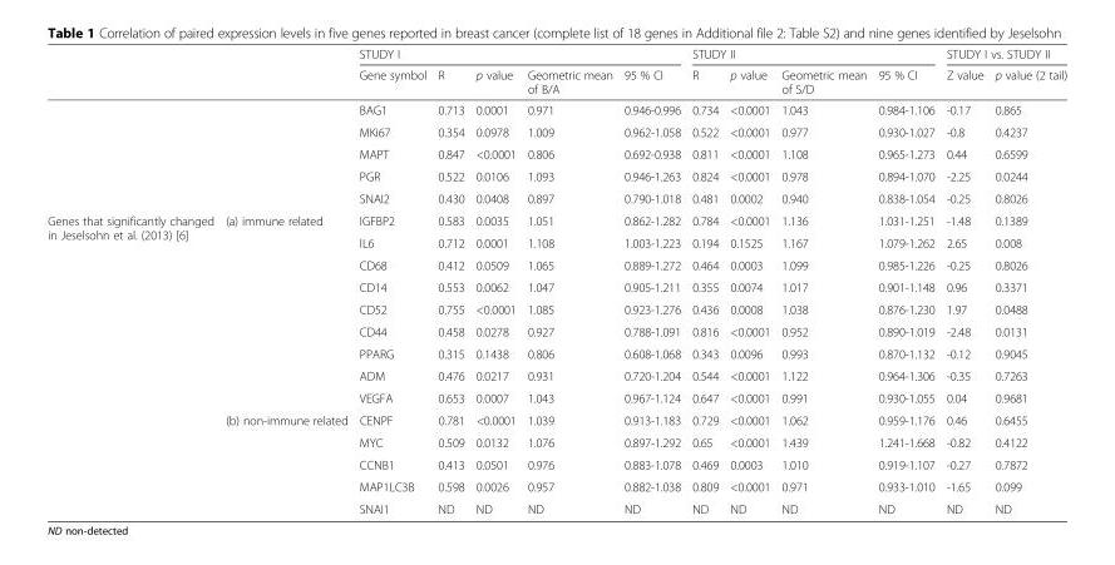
<table><thead><tr><td rowspan="2"></td><td rowspan="2"></td><td colspan="5">STUDY I</td><td colspan="4">STUDY II</td><td colspan="2">STUDY I vs. STUDY II</td></tr><tr><td>Gene symbol</td><td>R</td><td>p value</td><td>Geometric mean of B/A</td><td>95 % CI</td><td>R</td><td>p value</td><td>Geometric mean of S/D</td><td>95 % CI</td><td>Z value</td><td>p value (2 tail)</td></tr></thead><tbody><tr><td rowspan="5" colspan="2"></td><td>BAG1</td><td>0.713</td><td>0.0001</td><td>0.971</td><td>0.946-0.996</td><td>0.734</td><td>&lt;0.0001</td><td>1.043</td><td>0.984-1.106</td><td>-0.17</td><td>0.865</td></tr><tr><td>MKi67</td><td>0.354</td><td>0.0978</td><td>1.009</td><td>0.962-1.058</td><td>0.522</td><td>&lt;0.0001</td><td>0.977</td><td>0.930-1.027</td><td>-0.8</td><td>0.4237</td></tr><tr><td>MAPT</td><td>0.847</td><td>&lt;0.0001</td><td>0.806</td><td>0.692-0.938</td><td>0.811</td><td>&lt;0.0001</td><td>1.108</td><td>0.965-1.273</td><td>0.44</td><td>0.6599</td></tr><tr><td>PGR</td><td>0.522</td><td>0.0106</td><td>1.093</td><td>0.946-1.263</td><td>0.824</td><td>&lt;0.0001</td><td>0.978</td><td>0.894-1.070</td><td>-2.25</td><td>0.0244</td></tr><tr><td>SNAI2</td><td>0.430</td><td>0.0408</td><td>0.897</td><td>0.790-1.018</td><td>0.481</td><td>0.0002</td><td>0.940</td><td>0.838-1.054</td><td>-0.25</td><td>0.8026</td></tr><tr><td rowspan="14">Genes that significantly changed in Jeselsohn et al. (2013) [6]</td><td rowspan="9">(a) immune related</td><td>IGFBP2</td><td>0.583</td><td>0.0035</td><td>1.051</td><td>0.862-1.282</td><td>0.784</td><td>&lt;0.0001</td><td>1.136</td><td>1.031-1.251</td><td>-1.48</td><td>0.1389</td></tr><tr><td>IL6</td><td>0.712</td><td>0.0001</td><td>1.108</td><td>1.003-1.223</td><td>0.194</td><td>0.1525</td><td>1.167</td><td>1.079-1.262</td><td>2.65</td><td>0.008</td></tr><tr><td>CD68</td><td>0.412</td><td>0.0509</td><td>1.065</td><td>0.889-1.272</td><td>0.464</td><td>0.0003</td><td>1.099</td><td>0.985-1.226</td><td>-0.25</td><td>0.8026</td></tr><tr><td>CD14</td><td>0.553</td><td>0.0062</td><td>1.047</td><td>0.905-1.211</td><td>0.355</td><td>0.0074</td><td>1.017</td><td>0.901-1.148</td><td>0.96</td><td>0.3371</td></tr><tr><td>CD52</td><td>0.755</td><td>&lt;0.0001</td><td>1.085</td><td>0.923-1.276</td><td>0.436</td><td>0.0008</td><td>1.038</td><td>0.876-1.230</td><td>1.97</td><td>0.0488</td></tr><tr><td>CD44</td><td>0.458</td><td>0.0278</td><td>0.927</td><td>0.788-1.091</td><td>0.816</td><td>&lt;0.0001</td><td>0.952</td><td>0.890-1.019</td><td>-2.48</td><td>0.0131</td></tr><tr><td>PPARG</td><td>0.315</td><td>0.1438</td><td>0.806</td><td>0.608-1.068</td><td>0.343</td><td>0.0096</td><td>0.993</td><td>0.870-1.132</td><td>-0.12</td><td>0.9045</td></tr><tr><td>ADM</td><td>0.476</td><td>0.0217</td><td>0.931</td><td>0.720-1.204</td><td>0.544</td><td>&lt;0.0001</td><td>1.122</td><td>0.964-1.306</td><td>-0.35</td><td>0.7263</td></tr><tr><td>VEGFA</td><td>0.653</td><td>0.0007</td><td>1.043</td><td>0.967-1.124</td><td>0.647</td><td>&lt;0.0001</td><td>0.991</td><td>0.930-1.055</td><td>0.04</td><td>0.9681</td></tr><tr><td rowspan="5">(b) non-immune related</td><td>CENPF</td><td>0.781</td><td>&lt;0.0001</td><td>1.039</td><td>0.913-1.183</td><td>0.729</td><td>&lt;0.0001</td><td>1.062</td><td>0.959-1.176</td><td>0.46</td><td>0.6455</td></tr><tr><td>MYC</td><td>0.509</td><td>0.0132</td><td>1.076</td><td>0.897-1.292</td><td>0.65</td><td>&lt;0.0001</td><td>1.439</td><td>1.241-1.668</td><td>-0.82</td><td>0.4122</td></tr><tr><td>CCNB1</td><td>0.413</td><td>0.0501</td><td>0.976</td><td>0.883-1.078</td><td>0.469</td><td>0.0003</td><td>1.010</td><td>0.919-1.107</td><td>-0.27</td><td>0.7872</td></tr><tr><td>MAP1LC3B</td><td>0.598</td><td>0.0026</td><td>0.957</td><td>0.882-1.038</td><td>0.809</td><td>&lt;0.0001</td><td>0.971</td><td>0.933-1.010</td><td>-1.65</td><td>0.099</td></tr><tr><td>SNAI1</td><td>ND</td><td>ND</td><td>ND</td><td>ND</td><td>ND</td><td>ND</td><td>ND</td><td>ND</td><td>ND</td><td>ND</td></tr></tbody></table>